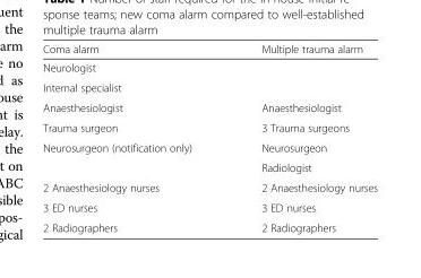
<table><thead><tr><td>Coma alarm</td><td>Multiple trauma alarm</td></tr></thead><tbody><tr><td colspan="2">Neurologist</td></tr><tr><td colspan="2">Internal specialist</td></tr><tr><td>Anaesthesiologist</td><td>Anaesthesiologist</td></tr><tr><td>Trauma surgeon</td><td>3 Trauma surgeons</td></tr><tr><td rowspan="2">Neurosurgeon (notification only)</td><td>Neurosurgeon</td></tr><tr><td>Radiologist</td></tr><tr><td>2 Anaesthesiology nurses</td><td>2 Anaesthesiology nurses</td></tr><tr><td>3 ED nurses</td><td>3 ED nurses</td></tr><tr><td>2 Radiographers</td><td>2 Radiographers</td></tr></tbody></table>